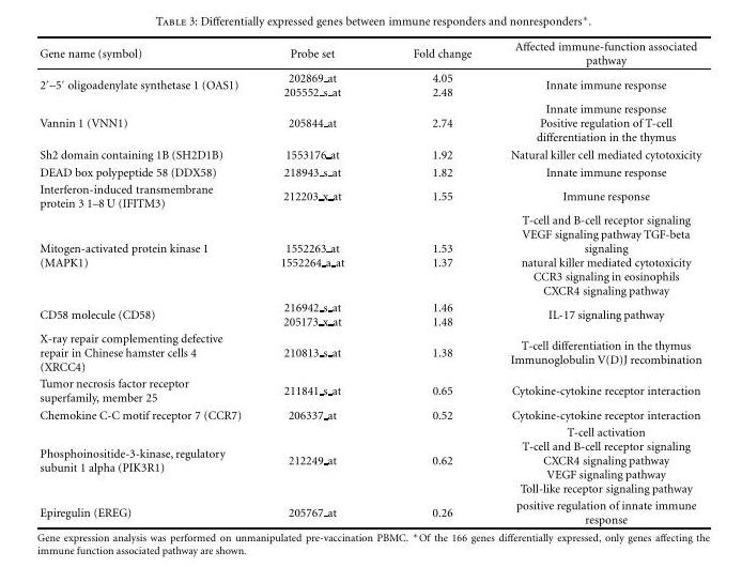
<table><thead><tr><td>Gene name (symbol)</td><td>Probe set</td><td>Fold change</td><td>Affected immune-function associated pathway</td></tr></thead><tbody><tr><td>2′–5′ oligoadenylate synthetase 1 (OAS1)</td><td>202869 at 205552 s at</td><td>4.05 2.48</td><td>Innate immune response</td></tr><tr><td>Vannin 1 (VNN1)</td><td>205844 at</td><td>2.74</td><td>Innate immune response Positive regulation of T-cell differentiation in the thymus</td></tr><tr><td>Sh2 domain containing 1B (SH2D1B)</td><td>1553176 at</td><td>1.92</td><td>Natural killer cell mediated cytotoxicity</td></tr><tr><td>DEAD box polypeptide 58 (DDX58)</td><td>218943 <sub>s</sub> at</td><td>1.82</td><td>Innate immune response</td></tr><tr><td>Interferon-induced transmembrane protein 3 1–8 U (IFITM3)</td><td>212203 <sub>x</sub> at</td><td>1.55</td><td>Immune response</td></tr><tr><td>Mitogen-activated protein kinase 1 (MAPK1)</td><td>1552263 at 1552264 a at</td><td>1.53 1.37</td><td>T-cell and B-cell receptor signaling VEGF signaling pathway TGF-beta signaling natural killer mediated cytotoxicity CCR3 signaling in eosinophils CXCR4 signaling pathway</td></tr><tr><td>CD58 molecule (CD58)</td><td>216942 <sub>s</sub> at 205173 <sub>x</sub> at</td><td>1.46 1.48</td><td>IL-17 signaling pathway</td></tr><tr><td>X-ray repair complementing defective repair in Chinese hamster cells 4 (XRCC4)</td><td>210813 <sub>s</sub> at</td><td>1.38</td><td>T-cell differentiation in the thymus Immunoglobulin V(D)J recombination</td></tr><tr><td>Tumor necrosis factor receptor superfamily, member 25</td><td>211841 <sub>s</sub> at</td><td>0.65</td><td>Cytokine-cytokine receptor interaction</td></tr><tr><td>Chemokine C-C motif receptor 7 (CCR7)</td><td>206337 at</td><td>0.52</td><td>Cytokine-cytokine receptor interaction</td></tr><tr><td>Phosphoinositide-3-kinase, regulatory subunit 1 alpha (PIK3R1)</td><td>212249 at</td><td>0.62</td><td>T-cell activation T-cell and B-cell receptor signaling CXCR4 signaling pathway VEGF signaling pathway Toll-like receptor signaling pathway</td></tr><tr><td>Epiregulin (EREG)</td><td>205767 at</td><td>0.26</td><td>positive regulation of innate immune response</td></tr></tbody></table>